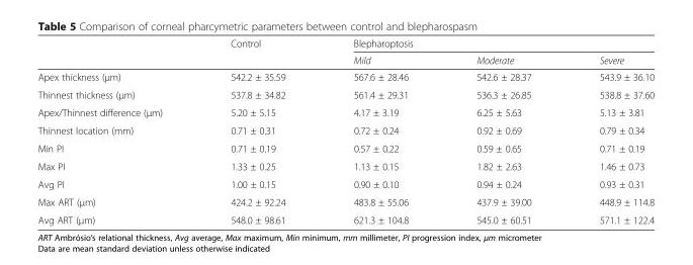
<table><thead><tr><td rowspan="2"></td><td rowspan="2">Control</td><td colspan="3">Blepharoptosis</td></tr><tr><td>Mild</td><td>Moderate</td><td>Severe</td></tr></thead><tbody><tr><td>Apex thickness (μm)</td><td>542.2 ± 35.59</td><td>567.6 ± 28.46</td><td>542.6 ± 28.37</td><td>543.9 ± 36.10</td></tr><tr><td>Thinnest thickness (μm)</td><td>537.8 ± 34.82</td><td>561.4 ± 29.31</td><td>536.3 ± 26.85</td><td>538.8 ± 37.60</td></tr><tr><td>Apex/Thinnest difference (μm)</td><td>5.20 ± 5.15</td><td>4.17 ± 3.19</td><td>6.25 ± 5.63</td><td>5.13 ± 3.81</td></tr><tr><td>Thinnest location (mm)</td><td>0.71 ± 0.31</td><td>0.72 ± 0.24</td><td>0.92 ± 0.69</td><td>0.79 ± 0.34</td></tr><tr><td>Min PI</td><td>0.71 ± 0.19</td><td>0.57 ± 0.22</td><td>0.59 ± 0.65</td><td>0.71 ± 0.19</td></tr><tr><td>Max PI</td><td>1.33 ± 0.25</td><td>1.13 ± 0.15</td><td>1.82 ± 2.63</td><td>1.46 ± 0.73</td></tr><tr><td>Avg PI</td><td>1.00 ± 0.15</td><td>0.90 ± 0.10</td><td>0.94 ± 0.24</td><td>0.93 ± 0.31</td></tr><tr><td>Max ART (μm)</td><td>424.2 ± 92.24</td><td>483.8 ± 55.06</td><td>437.9 ± 39.00</td><td>448.9 ± 114.8</td></tr><tr><td>Avg ART (μm)</td><td>548.0 ± 98.61</td><td>621.3 ± 104.8</td><td>545.0 ± 60.51</td><td>571.1 ± 122.4</td></tr></tbody></table>